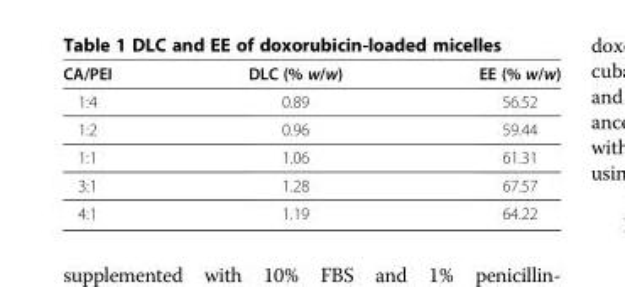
<table><thead><tr><td>CA/PEI</td><td>DLC (% w/w)</td><td>EE (% w/w)</td></tr></thead><tbody><tr><td>1:4</td><td>0.89</td><td>56.52</td></tr><tr><td>1:2</td><td>0.96</td><td>59.44</td></tr><tr><td>1:1</td><td>1.06</td><td>61.31</td></tr><tr><td>3:1</td><td>1.28</td><td>67.57</td></tr><tr><td>4:1</td><td>1.19</td><td>64.22</td></tr></tbody></table>